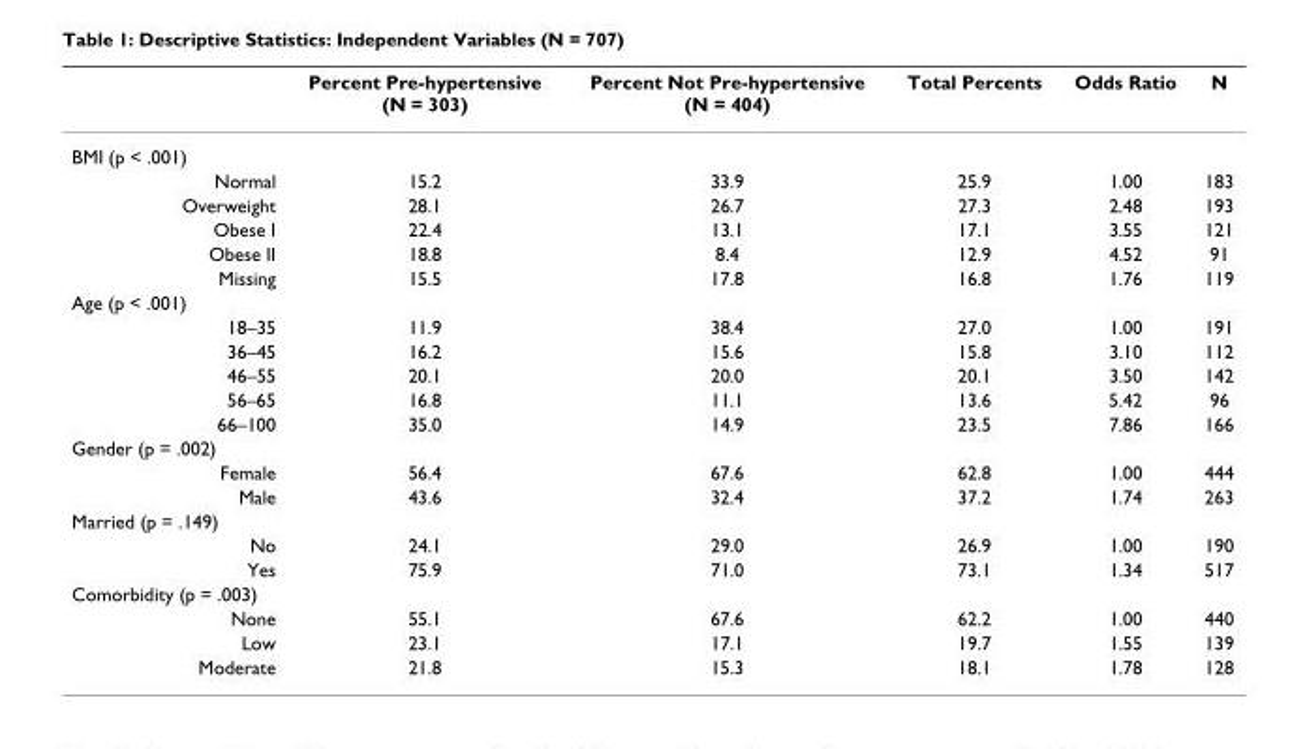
<table><thead><tr><td></td><td>Percent Pre-hypertensive (N = 303)</td><td>Percent Not Pre-hypertensive (N = 404)</td><td>Total Percents</td><td>Odds Ratio</td><td>N</td></tr></thead><tbody><tr><td colspan="6">BMI (p &lt; .001)</td></tr><tr><td>Normal</td><td>15.2</td><td>33.9</td><td>25.9</td><td>1.00</td><td>183</td></tr><tr><td>Overweight</td><td>28.1</td><td>26.7</td><td>27.3</td><td>2.48</td><td>193</td></tr><tr><td>Obese I</td><td>22.4</td><td>13.1</td><td>17.1</td><td>3.55</td><td>121</td></tr><tr><td>Obese II</td><td>18.8</td><td>8.4</td><td>12.9</td><td>4.52</td><td>91</td></tr><tr><td>Missing</td><td>15.5</td><td>17.8</td><td>16.8</td><td>1.76</td><td>119</td></tr><tr><td colspan="6">Age (p &lt; .001)</td></tr><tr><td>18–35</td><td>11.9</td><td>38.4</td><td>27.0</td><td>1.00</td><td>191</td></tr><tr><td>36–45</td><td>16.2</td><td>15.6</td><td>15.8</td><td>3.10</td><td>112</td></tr><tr><td>46–55</td><td>20.1</td><td>20.0</td><td>20.1</td><td>3.50</td><td>142</td></tr><tr><td>56–65</td><td>16.8</td><td>11.1</td><td>13.6</td><td>5.42</td><td>96</td></tr><tr><td>66–100</td><td>35.0</td><td>14.9</td><td>23.5</td><td>7.86</td><td>166</td></tr><tr><td colspan="6">Gender (p = .002)</td></tr><tr><td>Female</td><td>56.4</td><td>67.6</td><td>62.8</td><td>1.00</td><td>444</td></tr><tr><td>Male</td><td>43.6</td><td>32.4</td><td>37.2</td><td>1.74</td><td>263</td></tr><tr><td colspan="6">Married (p = .149)</td></tr><tr><td>No</td><td>24.1</td><td>29.0</td><td>26.9</td><td>1.00</td><td>190</td></tr><tr><td>Yes</td><td>75.9</td><td>71.0</td><td>73.1</td><td>1.34</td><td>517</td></tr><tr><td colspan="6">Comorbidity (p = .003)</td></tr><tr><td>None</td><td>55.1</td><td>67.6</td><td>62.2</td><td>1.00</td><td>440</td></tr><tr><td>Low</td><td>23.1</td><td>17.1</td><td>19.7</td><td>1.55</td><td>139</td></tr><tr><td>Moderate</td><td>21.8</td><td>15.3</td><td>18.1</td><td>1.78</td><td>128</td></tr></tbody></table>